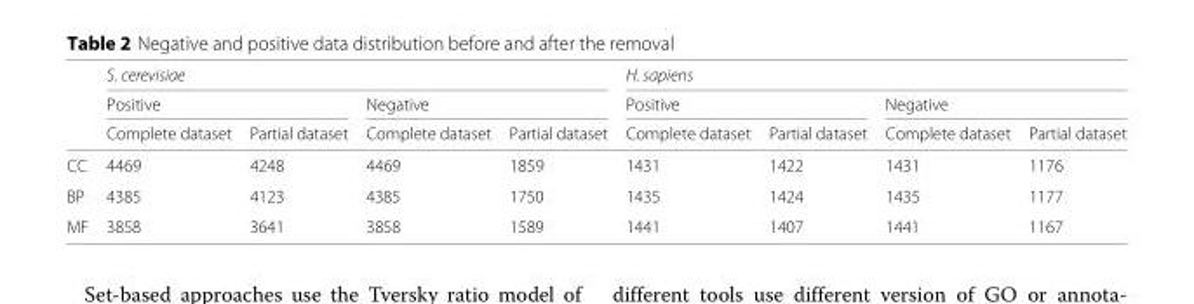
<table><thead><tr><td rowspan="3"></td><td colspan="4">S. cerevisiae</td><td colspan="4">H. sapiens</td></tr><tr><td colspan="2">Positive</td><td colspan="2">Negative</td><td colspan="2">Positive</td><td colspan="2">Negative</td></tr><tr><td>Complete dataset</td><td>Partial dataset</td><td>Complete dataset</td><td>Partial dataset</td><td>Complete dataset</td><td>Partial dataset</td><td>Complete dataset</td><td>Partial dataset</td></tr></thead><tbody><tr><td>CC</td><td>4469</td><td>4248</td><td>4469</td><td>1859</td><td>1431</td><td>1422</td><td>1431</td><td>1176</td></tr><tr><td>BP</td><td>4385</td><td>4123</td><td>4385</td><td>1750</td><td>1435</td><td>1424</td><td>1435</td><td>1177</td></tr><tr><td>MF</td><td>3858</td><td>3641</td><td>3858</td><td>1589</td><td>1441</td><td>1407</td><td>1441</td><td>1167</td></tr></tbody></table>